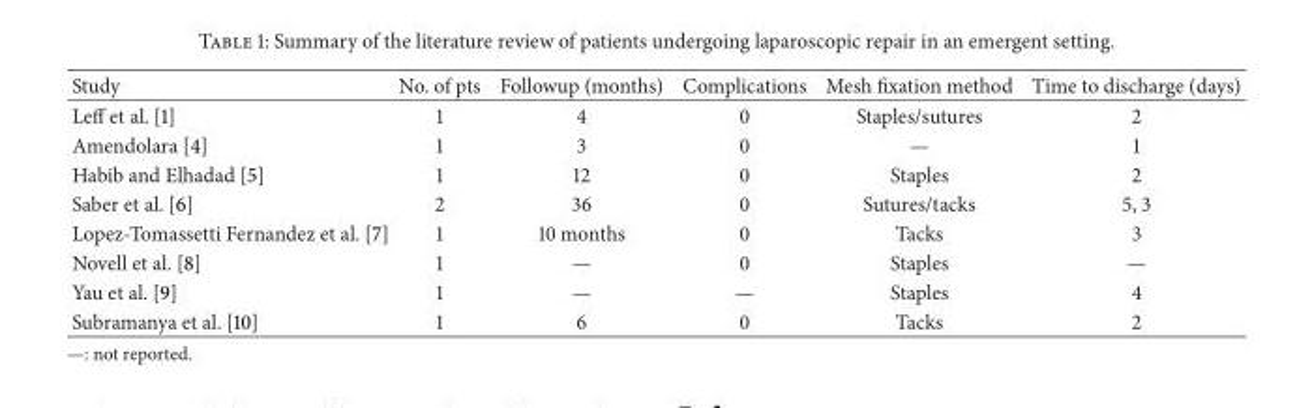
<table><thead><tr><td>Study</td><td>No. of pts</td><td>Followup (months)</td><td>Complications</td><td>Mesh fixation method</td><td>Time to discharge (days)</td></tr></thead><tbody><tr><td>Leff et al. [1]</td><td>1</td><td>4</td><td>0</td><td>Staples/sutures</td><td>2</td></tr><tr><td>Amendolara [4]</td><td>1</td><td>3</td><td>0</td><td>—</td><td>1</td></tr><tr><td>Habib and Elhadad [5]</td><td>1</td><td>12</td><td>0</td><td>Staples</td><td>2</td></tr><tr><td>Saber et al. [6]</td><td>2</td><td>36</td><td>0</td><td>Sutures/tacks</td><td>5, 3</td></tr><tr><td>Lopez-Tomassetti Fernandez et al. [7]</td><td>1</td><td>10 months</td><td>0</td><td>Tacks</td><td>3</td></tr><tr><td>Novell et al. [8]</td><td>1</td><td>—</td><td>0</td><td>Staples</td><td>—</td></tr><tr><td>Yau et al. [9]</td><td>1</td><td>—</td><td>—</td><td>Staples</td><td>4</td></tr><tr><td>Subramanya et al. [10]</td><td>1</td><td>6</td><td>0</td><td>Tacks</td><td>2</td></tr></tbody></table>